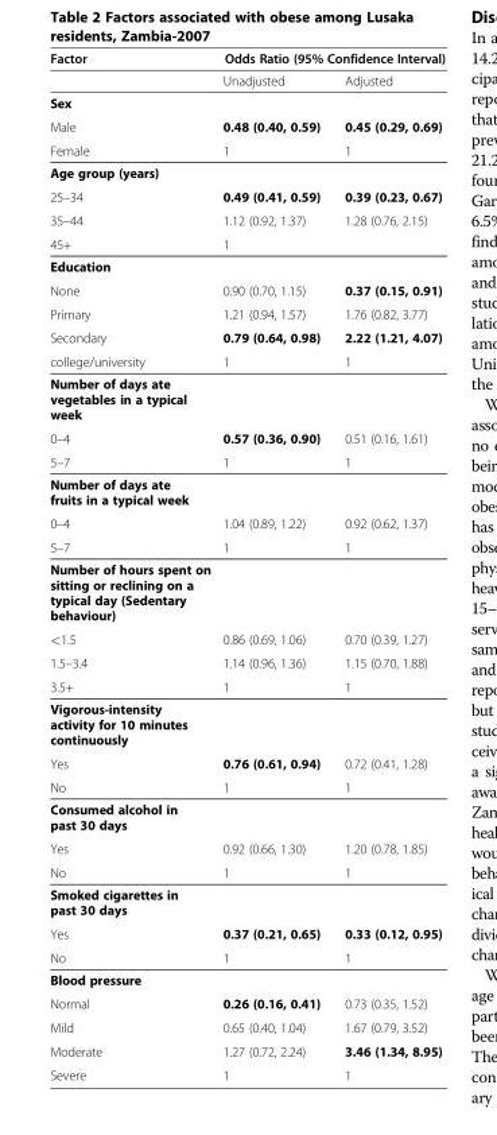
<table><thead><tr><td rowspan="2">Factor</td><td colspan="2">Odds Ratio (95% Confidence Interval)</td></tr><tr><td>Unadjusted</td><td>Adjusted</td></tr></thead><tbody><tr><td colspan="3">Sex</td></tr><tr><td>Male</td><td>0.48 (0.40, 0.59)</td><td>0.45 (0.29, 0.69)</td></tr><tr><td>Female</td><td>1</td><td>1</td></tr><tr><td colspan="3">Age group (years)</td></tr><tr><td>25–34</td><td>0.49 (0.41, 0.59)</td><td>0.39 (0.23, 0.67)</td></tr><tr><td>35–44</td><td>1.12 (0.92, 1.37)</td><td>1.28 (0.76, 2.15)</td></tr><tr><td>45+</td><td>1</td><td></td></tr><tr><td colspan="3">Education</td></tr><tr><td>None</td><td>0.90 (0.70, 1.15)</td><td>0.37 (0.15, 0.91)</td></tr><tr><td>Primary</td><td>1.21 (0.94, 1.57)</td><td>1.76 (0.82, 3.77)</td></tr><tr><td>Secondary</td><td>0.79 (0.64, 0.98)</td><td>2.22 (1.21, 4.07)</td></tr><tr><td>college/university</td><td>1</td><td>1</td></tr><tr><td colspan="3">Number of days ate vegetables in a typical week</td></tr><tr><td>0–4</td><td>0.57 (0.36, 0.90)</td><td>0.51 (0.16, 1.61)</td></tr><tr><td>5–7</td><td>1</td><td>1</td></tr><tr><td colspan="3">Number of days ate fruits in a typical week</td></tr><tr><td>0–4</td><td>1.04 (0.89, 1.22)</td><td>0.92 (0.62, 1.37)</td></tr><tr><td>5–7</td><td>1</td><td>1</td></tr><tr><td colspan="3">Number of hours spent on sitting or reclining on a typical day (Sedentary behaviour)</td></tr><tr><td>&lt;1.5</td><td>0.86 (0.69, 1.06)</td><td>0.70 (0.39, 1.27)</td></tr><tr><td>1.5–3.4</td><td>1.14 (0.96, 1.36)</td><td>1.15 (0.70, 1.88)</td></tr><tr><td>3.5+</td><td>1</td><td>1</td></tr><tr><td colspan="3">Vigorous-intensity activity for 10 minutes continuously</td></tr><tr><td>Yes</td><td>0.76 (0.61, 0.94)</td><td>0.72 (0.41, 1.28)</td></tr><tr><td>No</td><td>1</td><td>1</td></tr><tr><td colspan="3">Consumed alcohol in past 30 days</td></tr><tr><td>Yes</td><td>0.92 (0.66, 1.30)</td><td>1.20 (0.78, 1.85)</td></tr><tr><td>No</td><td>1</td><td>1</td></tr><tr><td colspan="3">Smoked cigarettes in past 30 days</td></tr><tr><td>Yes</td><td>0.37 (0.21, 0.65)</td><td>0.33 (0.12, 0.95)</td></tr><tr><td>No</td><td>1</td><td>1</td></tr><tr><td colspan="3">Blood pressure</td></tr><tr><td>Normal</td><td>0.26 (0.16, 0.41)</td><td>0.73 (0.35, 1.52)</td></tr><tr><td>Mild</td><td>0.65 (0.40, 1.04)</td><td>1.67 (0.79, 3.52)</td></tr><tr><td>Moderate</td><td>1.27 (0.72, 2.24)</td><td>3.46 (1.34, 8.95)</td></tr><tr><td>Severe</td><td>1</td><td>1</td></tr></tbody></table>